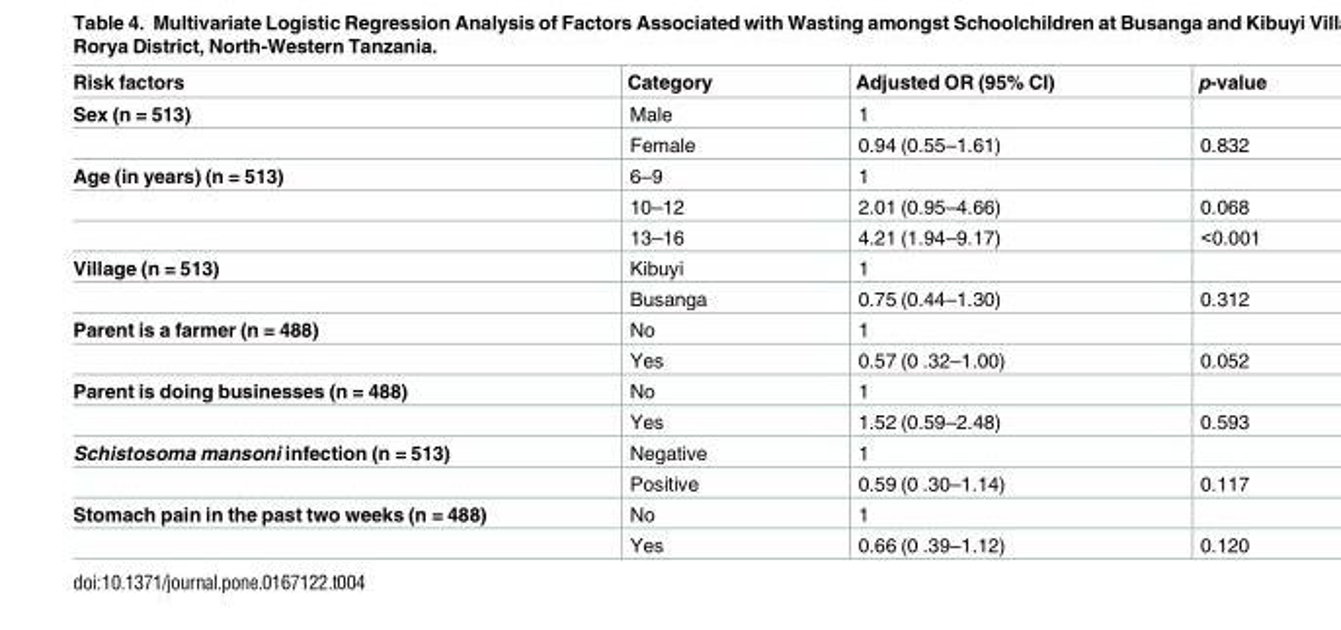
<table><thead><tr><td>Risk factors</td><td>Category</td><td>Adjusted OR (95% CI)</td><td>p-value</td></tr></thead><tbody><tr><td rowspan="2">Sex (n = 513)</td><td>Male</td><td>1</td><td></td></tr><tr><td>Female</td><td>0.94 (0.55–1.61)</td><td>0.832</td></tr><tr><td rowspan="3">Age (in years) (n = 513)</td><td>6–9</td><td>1</td><td></td></tr><tr><td>10–12</td><td>2.01 (0.95–4.66)</td><td>0.068</td></tr><tr><td>13–16</td><td>4.21 (1.94–9.17)</td><td>&lt;0.001</td></tr><tr><td rowspan="2">Village (n = 513)</td><td>Kibuyi</td><td>1</td><td></td></tr><tr><td>Busanga</td><td>0.75 (0.44–1.30)</td><td>0.312</td></tr><tr><td rowspan="2">Parent is a farmer (n = 488)</td><td>No</td><td>1</td><td></td></tr><tr><td>Yes</td><td>0.57 (0 .32–1.00)</td><td>0.052</td></tr><tr><td rowspan="2">Parent is doing businesses (n = 488)</td><td>No</td><td>1</td><td></td></tr><tr><td>Yes</td><td>1.52 (0.59–2.48)</td><td>0.593</td></tr><tr><td rowspan="2">Schistosoma mansoni infection (n = 513)</td><td>Negative</td><td>1</td><td></td></tr><tr><td>Positive</td><td>0.59 (0 .30–1.14)</td><td>0.117</td></tr><tr><td rowspan="2">Stomach pain in the past two weeks (n = 488)</td><td>No</td><td>1</td><td></td></tr><tr><td>Yes</td><td>0.66 (0 .39–1.12)</td><td>0.120</td></tr></tbody></table>